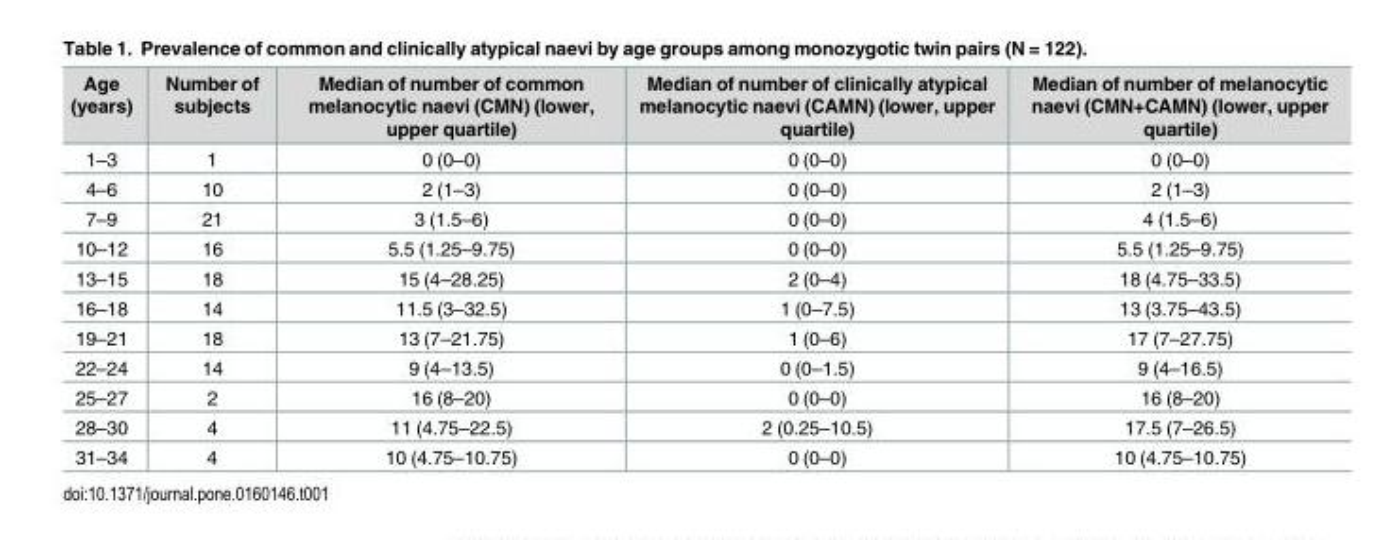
<table><thead><tr><td>Age (years)</td><td>Number of subjects</td><td>Median of number of common melanocytic naevi (CMN) (lower, upper quartile)</td><td>Median of number of clinically atypical melanocytic naevi (CAMN) (lower, upper quartile)</td><td>Median of number of melanocytic naevi (CMN+CAMN) (lower, upper quartile)</td></tr></thead><tbody><tr><td>1–3</td><td>1</td><td>0 (0–0)</td><td>0 (0–0)</td><td>0 (0–0)</td></tr><tr><td>4–6</td><td>10</td><td>2 (1–3)</td><td>0 (0–0)</td><td>2 (1–3)</td></tr><tr><td>7–9</td><td>21</td><td>3 (1.5–6)</td><td>0 (0–0)</td><td>4 (1.5–6)</td></tr><tr><td>10–12</td><td>16</td><td>5.5 (1.25–9.75)</td><td>0 (0–0)</td><td>5.5 (1.25–9.75)</td></tr><tr><td>13–15</td><td>18</td><td>15 (4–28.25)</td><td>2 (0–4)</td><td>18 (4.75–33.5)</td></tr><tr><td>16–18</td><td>14</td><td>11.5 (3–32.5)</td><td>1 (0–7.5)</td><td>13 (3.75–43.5)</td></tr><tr><td>19–21</td><td>18</td><td>13 (7–21.75)</td><td>1 (0–6)</td><td>17 (7–27.75)</td></tr><tr><td>22–24</td><td>14</td><td>9 (4–13.5)</td><td>0 (0–1.5)</td><td>9 (4–16.5)</td></tr><tr><td>25–27</td><td>2</td><td>16 (8–20)</td><td>0 (0–0)</td><td>16 (8–20)</td></tr><tr><td>28–30</td><td>4</td><td>11 (4.75–22.5)</td><td>2 (0.25–10.5)</td><td>17.5 (7–26.5)</td></tr><tr><td>31–34</td><td>4</td><td>10 (4.75–10.75)</td><td>0 (0–0)</td><td>10 (4.75–10.75)</td></tr></tbody></table>